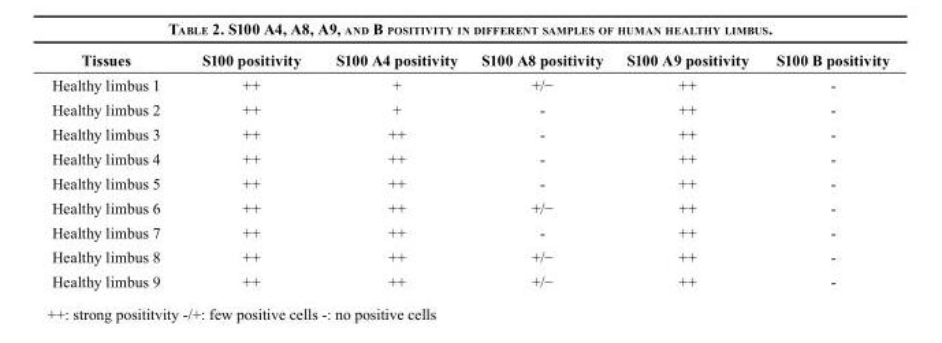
<table><thead><tr><td>Tissues</td><td>S100 positivity</td><td>S100 A4 positivity</td><td>S100 A8 positivity</td><td>S100 A9 positivity</td><td>S100 B positivity</td></tr></thead><tbody><tr><td>Healthy limbus 1</td><td>++</td><td>+</td><td>+/−</td><td>++</td><td>-</td></tr><tr><td>Healthy limbus 2</td><td>++</td><td>+</td><td>-</td><td>++</td><td>-</td></tr><tr><td>Healthy limbus 3</td><td>++</td><td>++</td><td>-</td><td>++</td><td>-</td></tr><tr><td>Healthy limbus 4</td><td>++</td><td>++</td><td>-</td><td>++</td><td>-</td></tr><tr><td>Healthy limbus 5</td><td>++</td><td>++</td><td>-</td><td>++</td><td>-</td></tr><tr><td>Healthy limbus 6</td><td>++</td><td>++</td><td>+/−</td><td>++</td><td>-</td></tr><tr><td>Healthy limbus 7</td><td>++</td><td>++</td><td>-</td><td>++</td><td>-</td></tr><tr><td>Healthy limbus 8</td><td>++</td><td>++</td><td>+/−</td><td>++</td><td>-</td></tr><tr><td>Healthy limbus 9</td><td>++</td><td>++</td><td>+/−</td><td>++</td><td>-</td></tr></tbody></table>